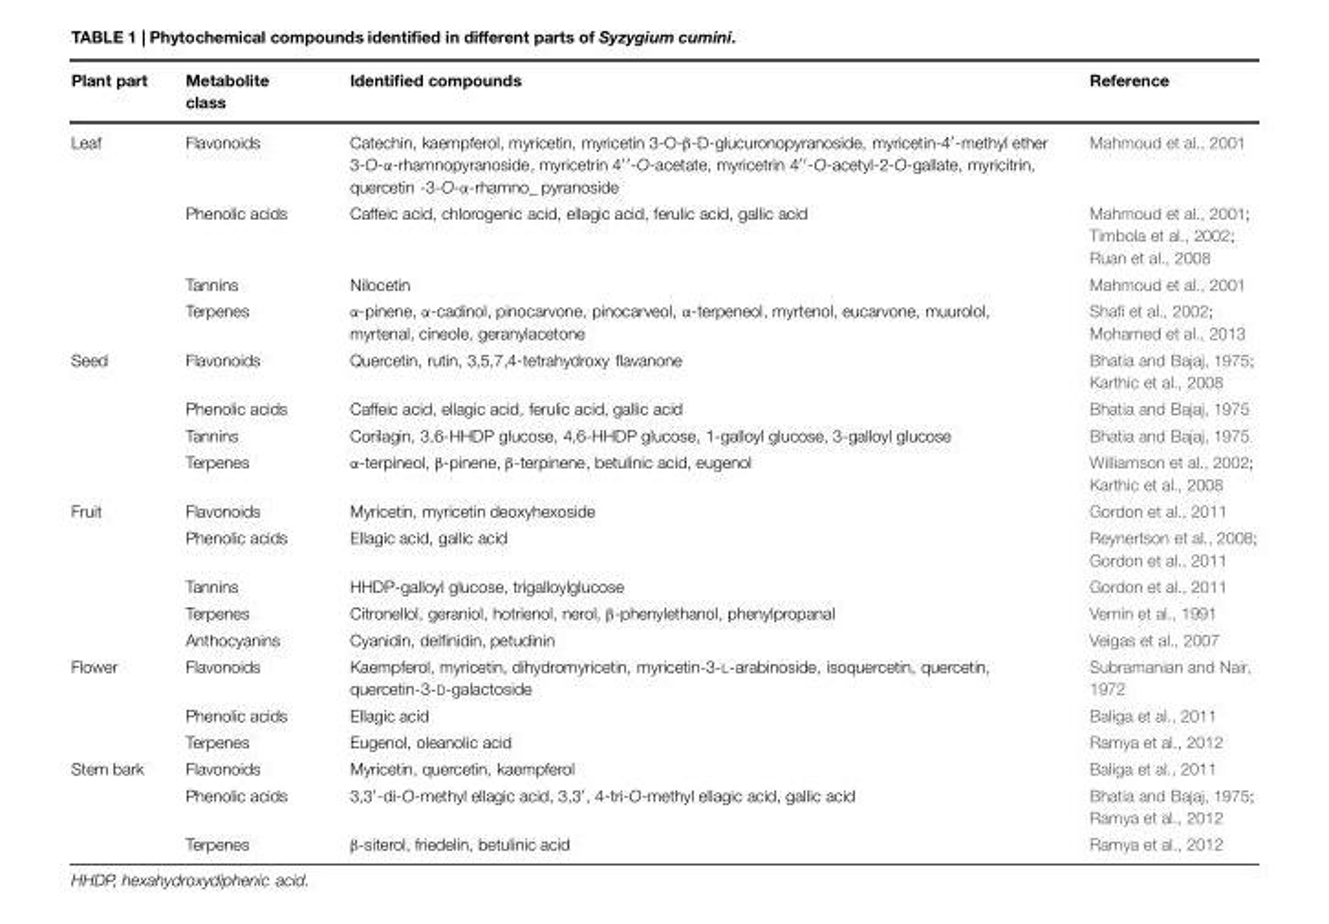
<table><thead><tr><td>Plant part</td><td>Metabolite class</td><td>Identified compounds</td><td>Reference</td></tr></thead><tbody><tr><td rowspan="4">Leaf</td><td>Flavonoids</td><td>Catechin, kaempferol, myricetin, myricetin 3-O-β-D-glucuronopyranoside, myricetin-4′-methyl ether 3-O-α-rhamnopyranoside, myricetrin 4′′-O-acetate, myricetrin 4′′-O-acetyl-2-O-gallate, myricitrin, quercetin -3-O-α-rhamno_ pyranoside</td><td>Mahmoud et al., 2001</td></tr><tr><td>Phenolic acids</td><td>Caffeic acid, chlorogenic acid, ellagic acid, ferulic acid, gallic acid</td><td>Mahmoud et al., 2001; Timbola et al., 2002; Ruan et al., 2008</td></tr><tr><td>Tannins</td><td>Nilocetin</td><td>Mahmoud et al., 2001</td></tr><tr><td>Terpenes</td><td>α-pinene, α-cadinol, pinocarvone, pinocarveol, α-terpeneol, myrtenol, eucarvone, muurolol, myrtenal, cineole, geranylacetone</td><td>Shafi et al., 2002; Mohamed et al., 2013</td></tr><tr><td rowspan="4">Seed</td><td>Flavonoids</td><td>Quercetin, rutin, 3,5,7,4-tetrahydroxy flavanone</td><td>Bhatia and Bajaj, 1975; Karthic et al., 2008</td></tr><tr><td>Phenolic acids</td><td>Caffeic acid, ellagic acid, ferulic acid, gallic acid</td><td>Bhatia and Bajaj, 1975</td></tr><tr><td>Tannins</td><td>Corilagin, 3,6-HHDP glucose, 4,6-HHDP glucose, 1-galloyl glucose, 3-galloyl glucose</td><td>Bhatia and Bajaj, 1975</td></tr><tr><td>Terpenes</td><td>α-terpineol, β-pinene, β-terpinene, betulinic acid, eugenol</td><td>Williamson et al., 2002; Karthic et al., 2008</td></tr><tr><td rowspan="5">Fruit</td><td>Flavonoids</td><td>Myricetin, myricetin deoxyhexoside</td><td>Gordon et al., 2011</td></tr><tr><td>Phenolic acids</td><td>Ellagic acid, gallic acid</td><td>Reynertson et al., 2008; Gordon et al., 2011</td></tr><tr><td>Tannins</td><td>HHDP-galloyl glucose, trigalloylglucose</td><td>Gordon et al., 2011</td></tr><tr><td>Terpenes</td><td>Citronellol, geraniol, hotrienol, nerol, β-phenylethanol, phenylpropanal</td><td>Vernin et al., 1991</td></tr><tr><td>Anthocyanins</td><td>Cyanidin, delfinidin, petudinin</td><td>Veigas et al., 2007</td></tr><tr><td rowspan="3">Flower</td><td>Flavonoids</td><td>Kaempferol, myricetin, dihydromyricetin, myricetin-3-L-arabinoside, isoquercetin, quercetin, quercetin-3-D-galactoside</td><td>Subramanian and Nair, 1972</td></tr><tr><td>Phenolic acids</td><td>Ellagic acid</td><td>Baliga et al., 2011</td></tr><tr><td>Terpenes</td><td>Eugenol, oleanolic acid</td><td>Ramya et al., 2012</td></tr><tr><td rowspan="3">Stem bark</td><td>Flavonoids</td><td>Myricetin, quercetin, kaempferol</td><td>Baliga et al., 2011</td></tr><tr><td>Phenolic acids</td><td>3,3′-di-O-methyl ellagic acid, 3,3′, 4-tri-O-methyl ellagic acid, gallic acid</td><td>Bhatia and Bajaj, 1975; Ramya et al., 2012</td></tr><tr><td>Terpenes</td><td>β-siterol, friedelin, betulinic acid</td><td>Ramya et al., 2012</td></tr></tbody></table>